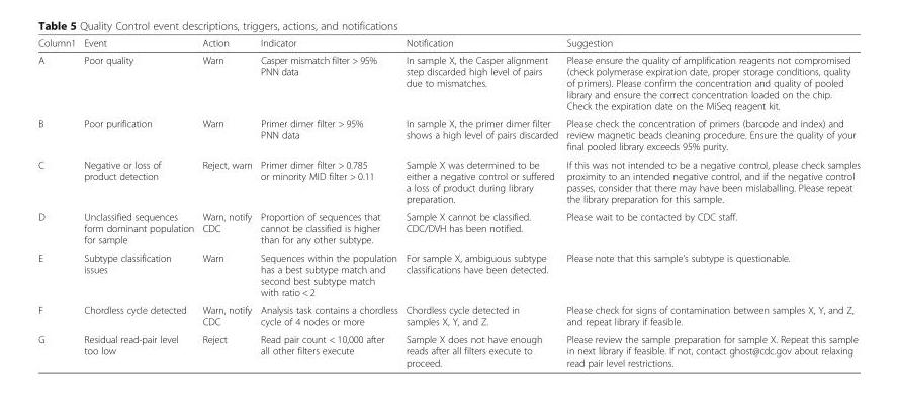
<table><thead><tr><td>Column1</td><td>Event</td><td>Action</td><td>Indicator</td><td>Notification</td><td>Suggestion</td></tr></thead><tbody><tr><td>A</td><td>Poor quality</td><td>Warn</td><td>Casper mismatch filter &gt; 95% PNN data</td><td>In sample X, the Casper alignment step discarded high level of pairs due to mismatches.</td><td>Please ensure the quality of amplification reagents not compromised (check polymerase expiration date, proper storage conditions, quality of primers). Please confirm the concentration and quality of pooled library and ensure the correct concentration loaded on the chip. Check the expiration date on the MiSeq reagent kit.</td></tr><tr><td>B</td><td>Poor purification</td><td>Warn</td><td>Primer dimer filter &gt; 95% PNN data</td><td>In sample X, the primer dimer filter shows a high level of pairs discarded</td><td>Please check the concentration of primers (barcode and index) and review magnetic beads cleaning procedure. Ensure the quality of your final pooled library exceeds 95% purity.</td></tr><tr><td>C</td><td>Negative or loss of product detection</td><td>Reject, warn</td><td>Primer dimer filter &gt; 0.785 or minority MID filter &gt; 0.11</td><td>Sample X was determined to be either a negative control or suffered a loss of product during library preparation.</td><td>If this was not intended to be a negative control, please check samples proximity to an intended negative control, and if the negative control passes, consider that there may have been mislaballing. Please repeat the library preparation for this sample.</td></tr><tr><td>D</td><td>Unclassified sequences form dominant population for sample</td><td>Warn, notify CDC</td><td>Proportion of sequences that cannot be classified is higher than for any other subtype.</td><td>Sample X cannot be classified. CDC/DVH has been notified.</td><td>Please wait to be contacted by CDC staff.</td></tr><tr><td>E</td><td>Subtype classification issues</td><td>Warn</td><td>Sequences within the population has a best subtype match and second best subtype match with ratio &lt; 2</td><td>For sample X, ambiguous subtype classifications have been detected.</td><td>Please note that this sample’s subtype is questionable.</td></tr><tr><td>F</td><td>Chordless cycle detected</td><td>Warn, notify CDC</td><td>Analysis task contains a chordless cycle of 4 nodes or more</td><td>Chordless cycle detected in samples X, Y, and Z.</td><td>Please check for signs of contamination between samples X, Y, and Z, and repeat library if feasible.</td></tr><tr><td>G</td><td>Residual read-pair level too low</td><td>Reject</td><td>Read pair count &lt; 10,000 after all other filters execute</td><td>Sample X does not have enough reads after all filters execute to proceed.</td><td>Please review the sample preparation for sample X. Repeat this sample in next library if feasible. If not, contact ghost@cdc.gov about relaxing read pair level restrictions.</td></tr></tbody></table>